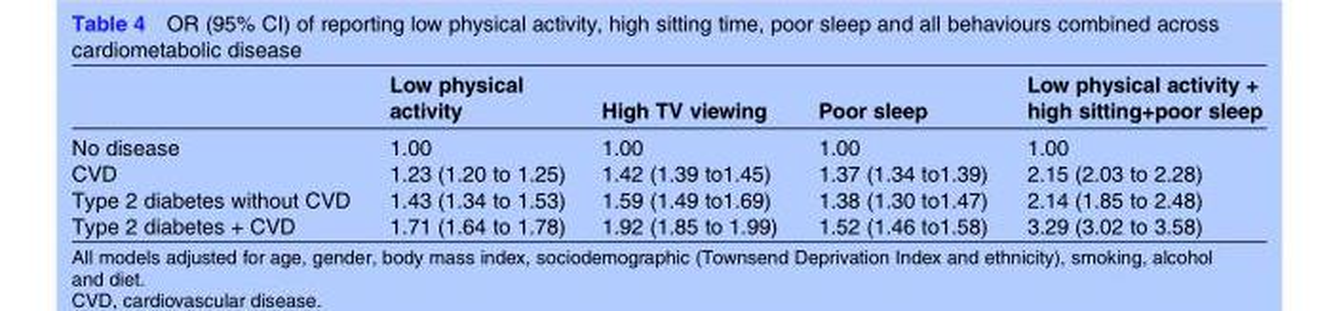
<table><thead><tr><td></td><td>Low physical activity</td><td>High TV viewing</td><td>Poor sleep</td><td>Low physical activity + high sitting+poor sleep</td></tr></thead><tbody><tr><td>No disease</td><td>1.00</td><td>1.00</td><td>1.00</td><td>1.00</td></tr><tr><td>CVD</td><td>1.23 (1.20 to 1.25)</td><td>1.42 (1.39 to1.45)</td><td>1.37 (1.34 to1.39)</td><td>2.15 (2.03 to 2.28)</td></tr><tr><td>Type 2 diabetes without CVD</td><td>1.43 (1.34 to 1.53)</td><td>1.59 (1.49 to1.69)</td><td>1.38 (1.30 to1.47)</td><td>2.14 (1.85 to 2.48)</td></tr><tr><td>Type 2 diabetes + CVD</td><td>1.71 (1.64 to 1.78)</td><td>1.92 (1.85 to 1.99)</td><td>1.52 (1.46 to1.58)</td><td>3.29 (3.02 to 3.58)</td></tr></tbody></table>